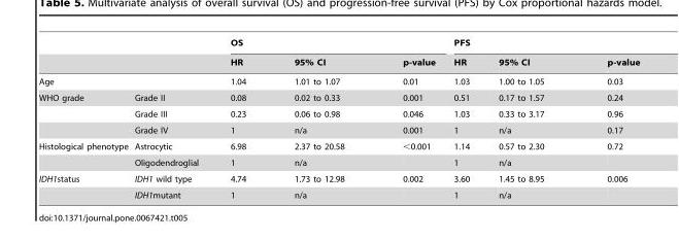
<table><thead><tr><td rowspan="2"></td><td rowspan="2"></td><td colspan="3">OS</td><td colspan="3">PFS</td></tr><tr><td>HR</td><td>95% CI</td><td>p-value</td><td>HR</td><td>95% CI</td><td>p-value</td></tr></thead><tbody><tr><td colspan="2">Age</td><td>1.04</td><td>1.01 to 1.07</td><td>0.01</td><td>1.03</td><td>1.00 to 1.05</td><td>0.03</td></tr><tr><td rowspan="3">WHO grade</td><td>Grade II</td><td>0.08</td><td>0.02 to 0.33</td><td>0.001</td><td>0.51</td><td>0.17 to 1.57</td><td>0.24</td></tr><tr><td>Grade III</td><td>0.23</td><td>0.06 to 0.98</td><td>0.046</td><td>1.03</td><td>0.33 to 3.17</td><td>0.96</td></tr><tr><td>Grade IV</td><td>1</td><td>n/a</td><td>0.001</td><td>1</td><td>n/a</td><td>0.17</td></tr><tr><td rowspan="2">Histological phenotype</td><td>Astrocytic</td><td>6.98</td><td>2.37 to 20.58</td><td>&lt;0.001</td><td>1.14</td><td>0.57 to 2.30</td><td>0.72</td></tr><tr><td>Oligodendroglial</td><td>1</td><td>n/a</td><td></td><td>1</td><td>n/a</td><td></td></tr><tr><td rowspan="2">IDH1status</td><td>IDH1 wild type</td><td>4.74</td><td>1.73 to 12.98</td><td>0.002</td><td>3.60</td><td>1.45 to 8.95</td><td>0.006</td></tr><tr><td>IDH1mutant</td><td>1</td><td>n/a</td><td></td><td>1</td><td>n/a</td><td></td></tr></tbody></table>